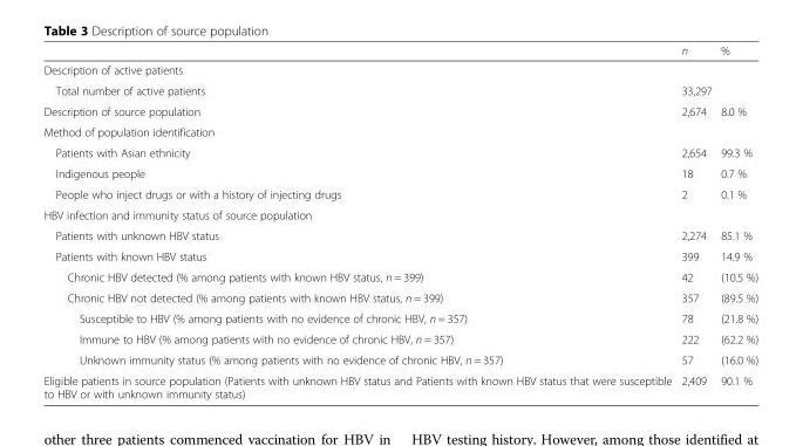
<table><thead><tr><td></td><td>n</td><td>%</td></tr></thead><tbody><tr><td colspan="3">Description of active patients</td></tr><tr><td>Total number of active patients</td><td>33,297</td><td></td></tr><tr><td>Description of source population</td><td>2,674</td><td>8.0 %</td></tr><tr><td colspan="3">Method of population identification</td></tr><tr><td>Patients with Asian ethnicity</td><td>2,654</td><td>99.3 %</td></tr><tr><td>Indigenous people</td><td>18</td><td>0.7 %</td></tr><tr><td>People who inject drugs or with a history of injecting drugs</td><td>2</td><td>0.1 %</td></tr><tr><td colspan="3">HBV infection and immunity status of source population</td></tr><tr><td>Patients with unknown HBV status</td><td>2,274</td><td>85.1 %</td></tr><tr><td>Patients with known HBV status</td><td>399</td><td>14.9 %</td></tr><tr><td>Chronic HBV detected (% among patients with known HBV status, n = 399)</td><td>42</td><td>(10.5 %)</td></tr><tr><td>Chronic HBV not detected (% among patients with known HBV status, n = 399)</td><td>357</td><td>(89.5 %)</td></tr><tr><td>Susceptible to HBV (% among patients with no evidence of chronic HBV, n = 357)</td><td>78</td><td>(21.8 %)</td></tr><tr><td>Immune to HBV (% among patients with no evidence of chronic HBV, n = 357)</td><td>222</td><td>(62.2 %)</td></tr><tr><td>Unknown immunity status (% among patients with no evidence of chronic HBV, n = 357)</td><td>57</td><td>(16.0 %)</td></tr><tr><td>Eligible patients in source population (Patients with unknown HBV status and Patients with known HBV status that were susceptible to HBV or with unknown immunity status)</td><td>2,409</td><td>90.1 %</td></tr></tbody></table>